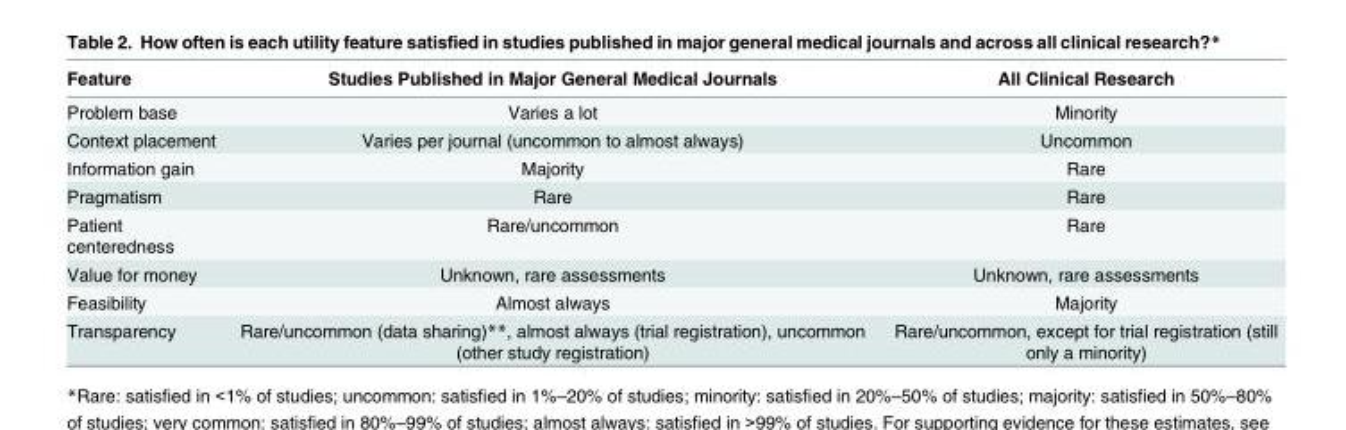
<table><thead><tr><td>Feature</td><td>Studies Published in Major General Medical Journals</td><td>All Clinical Research</td></tr></thead><tbody><tr><td>Problem base</td><td>Varies a lot</td><td>Minority</td></tr><tr><td>Context placement</td><td>Varies per journal (uncommon to almost always)</td><td>Uncommon</td></tr><tr><td>Information gain</td><td>Majority</td><td>Rare</td></tr><tr><td>Pragmatism</td><td>Rare</td><td>Rare</td></tr><tr><td>Patient centeredness</td><td>Rare/uncommon</td><td>Rare</td></tr><tr><td>Value for money</td><td>Unknown, rare assessments</td><td>Unknown, rare assessments</td></tr><tr><td>Feasibility</td><td>Almost always</td><td>Majority</td></tr><tr><td>Transparency</td><td>Rare/uncommon (data sharing)**, almost always (trial registration), uncommon (other study registration)</td><td>Rare/uncommon, except for trial registration (still only a minority)</td></tr></tbody></table>